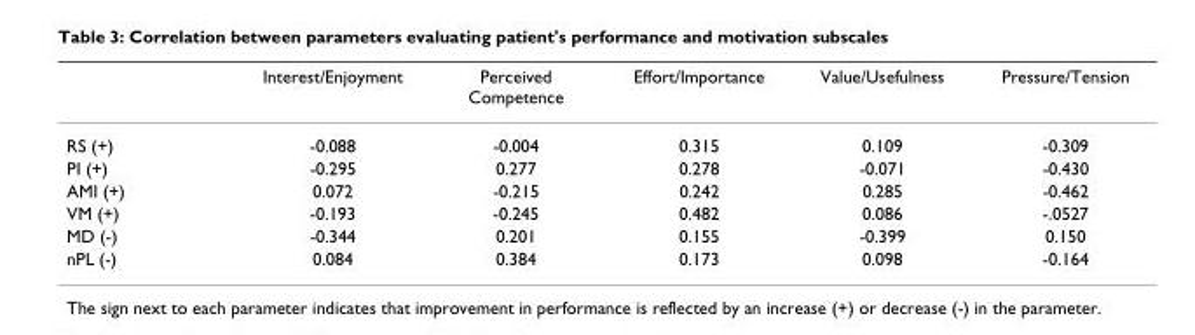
<table><thead><tr><td></td><td>Interest/Enjoyment</td><td>Perceived Competence</td><td>Effort/Importance</td><td>Value/Usefulness</td><td>Pressure/Tension</td></tr></thead><tbody><tr><td>RS (+)</td><td>-0.088</td><td>-0.004</td><td>0.315</td><td>0.109</td><td>-0.309</td></tr><tr><td>PI (+)</td><td>-0.295</td><td>0.277</td><td>0.278</td><td>-0.071</td><td>-0.430</td></tr><tr><td>AMI (+)</td><td>0.072</td><td>-0.215</td><td>0.242</td><td>0.285</td><td>-0.462</td></tr><tr><td>VM (+)</td><td>-0.193</td><td>-0.245</td><td>0.482</td><td>0.086</td><td>-.0527</td></tr><tr><td>MD (-)</td><td>-0.344</td><td>0.201</td><td>0.155</td><td>-0.399</td><td>0.150</td></tr><tr><td>nPL (-)</td><td>0.084</td><td>0.384</td><td>0.173</td><td>0.098</td><td>-0.164</td></tr></tbody></table>